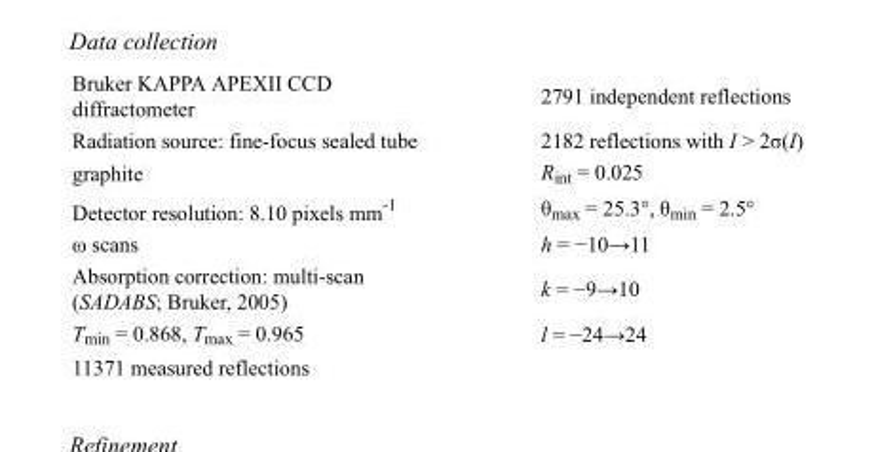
<table><tbody><tr><td>Bruker KAPPA APEXII CCD diffractometer</td><td>2791 independent reflections</td></tr><tr><td>Radiation source: fine-focus sealed tube</td><td>2182 reflections with I &gt; 2σ(I)</td></tr><tr><td>graphite</td><td>R<sub>int</sub> = 0.025</td></tr><tr><td>Detector resolution: 8.10 pixels mm<sup>-1</sup></td><td>θ<sub>max</sub> = 25.3°, θ<sub>min</sub> = 2.5°</td></tr><tr><td>ω scans</td><td>h = −10→11</td></tr><tr><td>Absorption correction: multi-scan (SADABS; Bruker, 2005)</td><td>k = −9→10</td></tr><tr><td>T<sub>min</sub> = 0.868, T<sub>max</sub> = 0.965</td><td>l = −24→24</td></tr><tr><td>11371 measured reflections</td><td></td></tr></tbody></table>